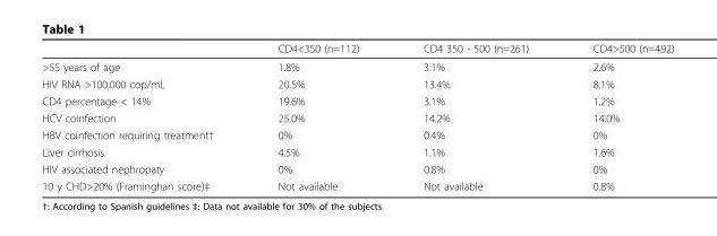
<table><thead><tr><td></td><td>CD4&lt;350 (n=112)</td><td>CD4 350 - 500 (n=261)</td><td>CD4&gt;500 (n=492)</td></tr></thead><tbody><tr><td>&gt;55 years of age</td><td>1.8%</td><td>3.1%</td><td>2.6%</td></tr><tr><td>HIV RNA &gt;100,000 cop/mL</td><td>20.5%</td><td>13.4%</td><td>8.1%</td></tr><tr><td>CD4 percentage &lt; 14%</td><td>19.6%</td><td>3.1%</td><td>1.2%</td></tr><tr><td>HCV coinfection</td><td>25.0%</td><td>14.2%</td><td>14.0%</td></tr><tr><td>HBV coinfection requiring treatment†</td><td>0%</td><td>0.4%</td><td>0%</td></tr><tr><td>Liver cirrhosis</td><td>4.5%</td><td>1.1%</td><td>1.6%</td></tr><tr><td>HIV associated nephropaty</td><td>0%</td><td>0.8%</td><td>0%</td></tr><tr><td>10 y CHD&gt;20% (Framinghan score)‡</td><td>Not available</td><td>Not available</td><td>0.8%</td></tr></tbody></table>